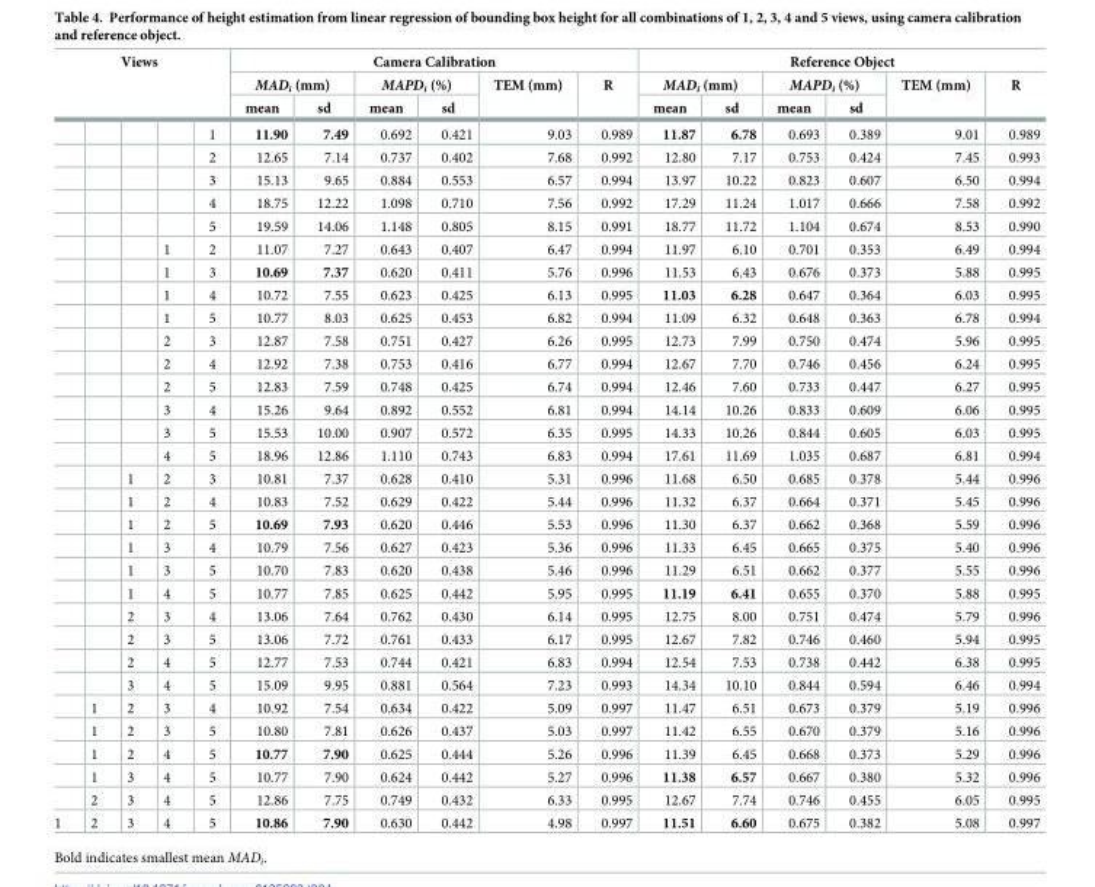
<table><thead><tr><td rowspan="3" colspan="5">Views</td><td colspan="6">Camera Calibration</td><td colspan="6">Reference Object</td></tr><tr><td colspan="2">MAD<sub>i</sub> (mm)</td><td colspan="2">MAPD<sub>i</sub> (%)</td><td rowspan="3">TEM (mm) 9.03</td><td rowspan="3">R 0.989</td><td colspan="2">MAD<sub>i</sub> (mm)</td><td colspan="2">MAPD<sub>i</sub> (%)</td><td rowspan="3">TEM (mm) 9.01</td><td rowspan="3">R 0.989</td></tr><tr><td rowspan="2">mean 11.90</td><td rowspan="2">sd 7.49</td><td rowspan="2">mean 0.692</td><td rowspan="2">sd 0.421</td><td rowspan="2">mean 11.87</td><td rowspan="2">sd 6.78</td><td rowspan="2">mean 0.693</td><td rowspan="2">sd 0.389</td></tr><tr><td></td><td></td><td></td><td></td><td>1</td></tr></thead><tbody><tr><td></td><td></td><td></td><td></td><td>2</td><td>12.65</td><td>7.14</td><td>0.737</td><td>0.402</td><td>7.68</td><td>0.992</td><td>12.80</td><td>7.17</td><td>0.753</td><td>0.424</td><td>7.45</td><td>0.993</td></tr><tr><td></td><td></td><td></td><td></td><td>3</td><td>15.13</td><td>9.65</td><td>0.884</td><td>0.553</td><td>6.57</td><td>0.994</td><td>13.97</td><td>10.22</td><td>0.823</td><td>0.607</td><td>6.50</td><td>0.994</td></tr><tr><td></td><td></td><td></td><td></td><td>4</td><td>18.75</td><td>12.22</td><td>1.098</td><td>0.710</td><td>7.56</td><td>0.992</td><td>17.29</td><td>11.24</td><td>1.017</td><td>0.666</td><td>7.58</td><td>0.992</td></tr><tr><td></td><td></td><td></td><td></td><td>5</td><td>19.59</td><td>14.06</td><td>1.148</td><td>0.805</td><td>8.15</td><td>0.991</td><td>18.77</td><td>11.72</td><td>1.104</td><td>0.674</td><td>8.53</td><td>0.990</td></tr><tr><td></td><td></td><td></td><td>1</td><td>2</td><td>11.07</td><td>7.27</td><td>0.643</td><td>0.407</td><td>6.47</td><td>0.994</td><td>11.97</td><td>6.10</td><td>0.701</td><td>0.353</td><td>6.49</td><td>0.994</td></tr><tr><td></td><td></td><td></td><td>1</td><td>3</td><td>10.69</td><td>7.37</td><td>0.620</td><td>0.411</td><td>5.76</td><td>0.996</td><td>11.53</td><td>6.43</td><td>0.676</td><td>0.373</td><td>5.88</td><td>0.995</td></tr><tr><td></td><td></td><td></td><td>1</td><td>4</td><td>10.72</td><td>7.55</td><td>0.623</td><td>0.425</td><td>6.13</td><td>0.995</td><td>11.03</td><td>6.28</td><td>0.647</td><td>0.364</td><td>6.03</td><td>0.995</td></tr><tr><td></td><td></td><td></td><td>1</td><td>5</td><td>10.77</td><td>8.03</td><td>0.625</td><td>0.453</td><td>6.82</td><td>0.994</td><td>11.09</td><td>6.32</td><td>0.648</td><td>0.363</td><td>6.78</td><td>0.994</td></tr><tr><td></td><td></td><td></td><td>2</td><td>3</td><td>12.87</td><td>7.58</td><td>0.751</td><td>0.427</td><td>6.26</td><td>0.995</td><td>12.73</td><td>7.99</td><td>0.750</td><td>0.474</td><td>5.96</td><td>0.995</td></tr><tr><td></td><td></td><td></td><td>2</td><td>4</td><td>12.92</td><td>7.38</td><td>0.753</td><td>0.416</td><td>6.77</td><td>0.994</td><td>12.67</td><td>7.70</td><td>0.746</td><td>0.456</td><td>6.24</td><td>0.995</td></tr><tr><td></td><td></td><td></td><td>2</td><td>5</td><td>12.83</td><td>7.59</td><td>0.748</td><td>0.425</td><td>6.74</td><td>0.994</td><td>12.46</td><td>7.60</td><td>0.733</td><td>0.447</td><td>6.27</td><td>0.995</td></tr><tr><td></td><td></td><td></td><td>3</td><td>4</td><td>15.26</td><td>9.64</td><td>0.892</td><td>0.552</td><td>6.81</td><td>0.994</td><td>14.14</td><td>10.26</td><td>0.833</td><td>0.609</td><td>6.06</td><td>0.995</td></tr><tr><td></td><td></td><td></td><td>3</td><td>5</td><td>15.53</td><td>10.00</td><td>0.907</td><td>0.572</td><td>6.35</td><td>0.995</td><td>14.33</td><td>10.26</td><td>0.844</td><td>0.605</td><td>6.03</td><td>0.995</td></tr><tr><td></td><td></td><td></td><td>4</td><td>5</td><td>18.96</td><td>12.86</td><td>1.110</td><td>0.743</td><td>6.83</td><td>0.994</td><td>17.61</td><td>11.69</td><td>1.035</td><td>0.687</td><td>6.81</td><td>0.994</td></tr><tr><td></td><td></td><td>1</td><td>2</td><td>3</td><td>10.81</td><td>7.37</td><td>0.628</td><td>0.410</td><td>5.31</td><td>0.996</td><td>11.68</td><td>6.50</td><td>0.685</td><td>0.378</td><td>5.44</td><td>0.996</td></tr><tr><td></td><td></td><td>1</td><td>2</td><td>4</td><td>10.83</td><td>7.52</td><td>0.629</td><td>0.422</td><td>5.44</td><td>0.996</td><td>11.32</td><td>6.37</td><td>0.664</td><td>0.371</td><td>5.45</td><td>0.996</td></tr><tr><td></td><td></td><td>1</td><td>2</td><td>5</td><td>10.69</td><td>7.93</td><td>0.620</td><td>0.446</td><td>5.53</td><td>0.996</td><td>11.30</td><td>6.37</td><td>0.662</td><td>0.368</td><td>5.59</td><td>0.996</td></tr><tr><td></td><td></td><td>1</td><td>3</td><td>4</td><td>10.79</td><td>7.56</td><td>0.627</td><td>0.423</td><td>5.36</td><td>0.996</td><td>11.33</td><td>6.45</td><td>0.665</td><td>0.375</td><td>5.40</td><td>0.996</td></tr><tr><td></td><td></td><td>1</td><td>3</td><td>5</td><td>10.70</td><td>7.83</td><td>0.620</td><td>0.438</td><td>5.46</td><td>0.996</td><td>11.29</td><td>6.51</td><td>0.662</td><td>0.377</td><td>5.55</td><td>0.996</td></tr><tr><td></td><td></td><td>1</td><td>4</td><td>5</td><td>10.77</td><td>7.85</td><td>0.625</td><td>0.442</td><td>5.95</td><td>0.995</td><td>11.19</td><td>6.41</td><td>0.655</td><td>0.370</td><td>5.88</td><td>0.995</td></tr><tr><td></td><td></td><td>2</td><td>3</td><td>4</td><td>13.06</td><td>7.64</td><td>0.762</td><td>0.430</td><td>6.14</td><td>0.995</td><td>12.75</td><td>8.00</td><td>0.751</td><td>0.474</td><td>5.79</td><td>0.996</td></tr><tr><td></td><td></td><td>2</td><td>3</td><td>5</td><td>13.06</td><td>7.72</td><td>0.761</td><td>0.433</td><td>6.17</td><td>0.995</td><td>12.67</td><td>7.82</td><td>0.746</td><td>0.460</td><td>5.94</td><td>0.995</td></tr><tr><td></td><td></td><td>2</td><td>4</td><td>5</td><td>12.77</td><td>7.53</td><td>0.744</td><td>0.421</td><td>6.83</td><td>0.994</td><td>12.54</td><td>7.53</td><td>0.738</td><td>0.442</td><td>6.38</td><td>0.995</td></tr><tr><td></td><td></td><td>3</td><td>4</td><td>5</td><td>15.09</td><td>9.95</td><td>0.881</td><td>0.564</td><td>7.23</td><td>0.993</td><td>14.34</td><td>10.10</td><td>0.844</td><td>0.594</td><td>6.46</td><td>0.994</td></tr><tr><td></td><td>1</td><td>2</td><td>3</td><td>4</td><td>10.92</td><td>7.54</td><td>0.634</td><td>0.422</td><td>5.09</td><td>0.997</td><td>11.47</td><td>6.51</td><td>0.673</td><td>0.379</td><td>5.19</td><td>0.996</td></tr><tr><td></td><td>1</td><td>2</td><td>3</td><td>5</td><td>10.80</td><td>7.81</td><td>0.626</td><td>0.437</td><td>5.03</td><td>0.997</td><td>11.42</td><td>6.55</td><td>0.670</td><td>0.379</td><td>5.16</td><td>0.996</td></tr><tr><td></td><td>1</td><td>2</td><td>4</td><td>5</td><td>10.77</td><td>7.90</td><td>0.625</td><td>0.444</td><td>5.26</td><td>0.996</td><td>11.39</td><td>6.45</td><td>0.668</td><td>0.373</td><td>5.29</td><td>0.996</td></tr><tr><td></td><td>1</td><td>3</td><td>4</td><td>5</td><td>10.77</td><td>7.90</td><td>0.624</td><td>0.442</td><td>5.27</td><td>0.996</td><td>11.38</td><td>6.57</td><td>0.667</td><td>0.380</td><td>5.32</td><td>0.996</td></tr><tr><td></td><td>2</td><td>3</td><td>4</td><td>5</td><td>12.86</td><td>7.75</td><td>0.749</td><td>0.432</td><td>6.33</td><td>0.995</td><td>12.67</td><td>7.74</td><td>0.746</td><td>0.455</td><td>6.05</td><td>0.995</td></tr><tr><td>1</td><td>2</td><td>3</td><td>4</td><td>5</td><td>10.86</td><td>7.90</td><td>0.630</td><td>0.442</td><td>4.98</td><td>0.997</td><td>11.51</td><td>6.60</td><td>0.675</td><td>0.382</td><td>5.08</td><td>0.997</td></tr></tbody></table>